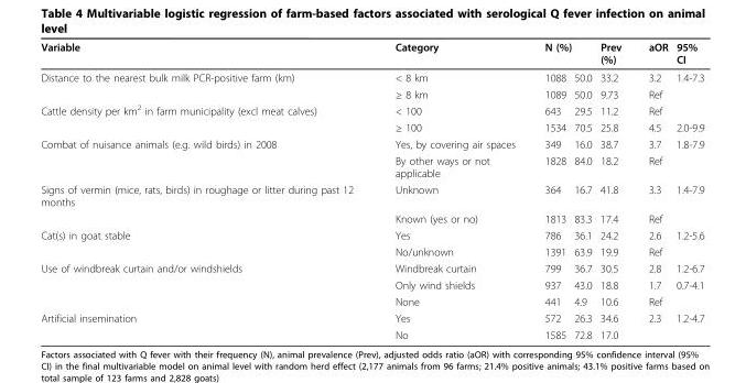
<table><thead><tr><td rowspan="2">Variable Distance to the nearest bulk milk PCR-positive farm (km)</td><td rowspan="2">Category &lt; 8 km</td><td colspan="2">N (%)</td><td rowspan="2">Prev (%) 33.2</td><td rowspan="2">aOR 3.2</td><td rowspan="2">95% CI 1.4-7.3</td></tr><tr><td>1088</td><td>50.0</td></tr></thead><tbody><tr><td></td><td>≥ 8 km</td><td>1089</td><td>50.0</td><td>9.73</td><td>Ref</td><td></td></tr><tr><td rowspan="2">Cattle density per km<sup>2</sup> in farm municipality (excl meat calves)</td><td>&lt; 100</td><td>643</td><td>29.5</td><td>11.2</td><td>Ref</td><td></td></tr><tr><td>≥ 100</td><td>1534</td><td>70.5</td><td>25.8</td><td>4.5</td><td>2.0-9.9</td></tr><tr><td rowspan="2">Combat of nuisance animals (e.g. wild birds) in 2008</td><td>Yes, by covering air spaces</td><td>349</td><td>16.0</td><td>38.7</td><td>3.7</td><td>1.8-7.9</td></tr><tr><td>By other ways or not applicable</td><td>1828</td><td>84.0</td><td>18.2</td><td>Ref</td><td></td></tr><tr><td rowspan="2">Signs of vermin (mice, rats, birds) in roughage or litter during past 12 months</td><td>Unknown</td><td>364</td><td>16.7</td><td>41.8</td><td>3.3</td><td>1.4-7.9</td></tr><tr><td>Known (yes or no)</td><td>1813</td><td>83.3</td><td>17.4</td><td>Ref</td><td></td></tr><tr><td rowspan="2">Cat(s) in goat stable</td><td>Yes</td><td>786</td><td>36.1</td><td>24.2</td><td>2.6</td><td>1.2-5.6</td></tr><tr><td>No/unknown</td><td>1391</td><td>63.9</td><td>19.9</td><td>Ref</td><td></td></tr><tr><td rowspan="3">Use of windbreak curtain and/or windshields</td><td>Windbreak curtain</td><td>799</td><td>36.7</td><td>30.5</td><td>2.8</td><td>1.2-6.7</td></tr><tr><td>Only wind shields</td><td>937</td><td>43.0</td><td>18.8</td><td>1.7</td><td>0.7-4.1</td></tr><tr><td>None</td><td>441</td><td>4.9</td><td>10.6</td><td>Ref</td><td></td></tr><tr><td rowspan="2">Artificial insemination</td><td>Yes</td><td>572</td><td>26.3</td><td>34.6</td><td>2.3</td><td>1.2-4.7</td></tr><tr><td>No</td><td>1585</td><td>72.8</td><td>17.0</td><td></td><td></td></tr></tbody></table>